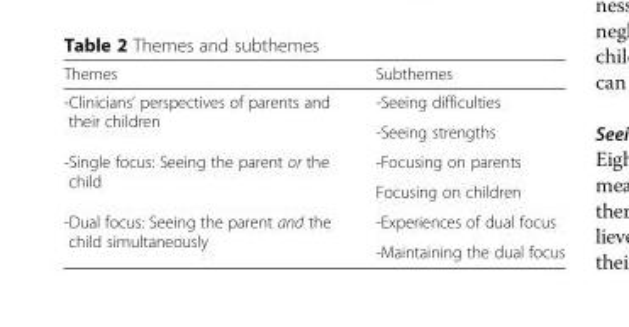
<table><thead><tr><td>Themes</td><td>Subthemes</td></tr></thead><tbody><tr><td rowspan="2">-Clinicians’ perspectives of parents and their children</td><td>-Seeing difficulties</td></tr><tr><td>-Seeing strengths</td></tr><tr><td rowspan="2">-Single focus: Seeing the parent or the child</td><td>-Focusing on parents</td></tr><tr><td>Focusing on children</td></tr><tr><td rowspan="2">-Dual focus: Seeing the parent and the child simultaneously</td><td>-Experiences of dual focus</td></tr><tr><td>-Maintaining the dual focus</td></tr></tbody></table>